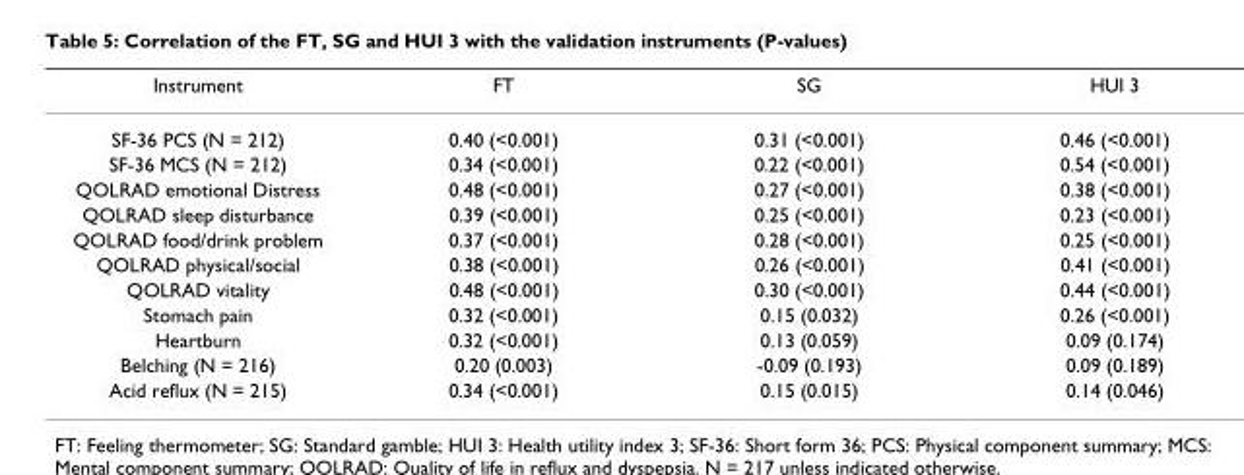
<table><thead><tr><td>Instrument</td><td>FT</td><td>SG</td><td>HUI 3</td></tr></thead><tbody><tr><td>SF-36 PCS (N = 212)</td><td>0.40 (&lt;0.001)</td><td>0.31 (&lt;0.001)</td><td>0.46 (&lt;0.001)</td></tr><tr><td>SF-36 MCS (N = 212)</td><td>0.34 (&lt;0.001)</td><td>0.22 (&lt;0.001)</td><td>0.54 (&lt;0.001)</td></tr><tr><td>QOLRAD emotional Distress</td><td>0.48 (&lt;0.001)</td><td>0.27 (&lt;0.001)</td><td>0.38 (&lt;0.001)</td></tr><tr><td>QOLRAD sleep disturbance</td><td>0.39 (&lt;0.001)</td><td>0.25 (&lt;0.001)</td><td>0.23 (&lt;0.001)</td></tr><tr><td>QOLRAD food/drink problem</td><td>0.37 (&lt;0.001)</td><td>0.28 (&lt;0.001)</td><td>0.25 (&lt;0.001)</td></tr><tr><td>QOLRAD physical/social</td><td>0.38 (&lt;0.001)</td><td>0.26 (&lt;0.001)</td><td>0.41 (&lt;0.001)</td></tr><tr><td>QOLRAD vitality</td><td>0.48 (&lt;0.001)</td><td>0.30 (&lt;0.001)</td><td>0.44 (&lt;0.001)</td></tr><tr><td>Stomach pain</td><td>0.32 (&lt;0.001)</td><td>0.15 (0.032)</td><td>0.26 (&lt;0.001)</td></tr><tr><td>Heartburn</td><td>0.32 (&lt;0.001)</td><td>0.13 (0.059)</td><td>0.09 (0.174)</td></tr><tr><td>Belching (N = 216)</td><td>0.20 (0.003)</td><td>-0.09 (0.193)</td><td>0.09 (0.189)</td></tr><tr><td>Acid reflux (N = 215)</td><td>0.34 (&lt;0.001)</td><td>0.15 (0.015)</td><td>0.14 (0.046)</td></tr></tbody></table>